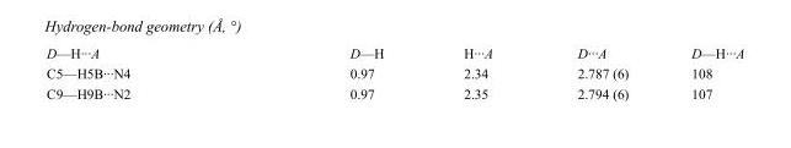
<table><tbody><tr><td>D—H···A</td><td>D—H</td><td>H···A</td><td>D···A</td><td>D—H···A</td></tr><tr><td>C5—H5B···N4</td><td>0.97</td><td>2.34</td><td>2.787 (6)</td><td>108</td></tr><tr><td>C9—H9B···N2</td><td>0.97</td><td>2.35</td><td>2.794 (6)</td><td>107</td></tr></tbody></table>